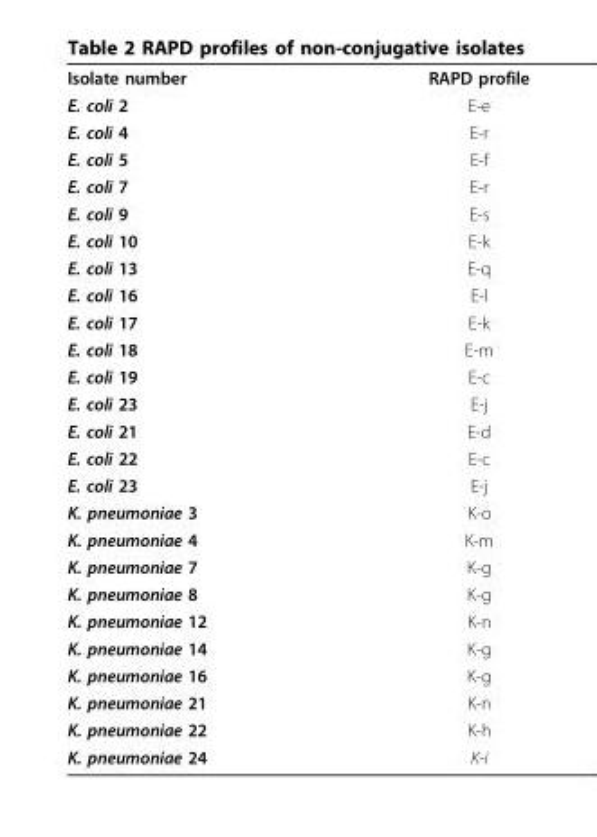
<table><tbody><tr><td>Isolate number</td><td>RAPD profile</td></tr><tr><td>E. coli 2</td><td>E-e</td></tr><tr><td>E. coli 4</td><td>E-r</td></tr><tr><td>E. coli 5</td><td>E-f</td></tr><tr><td>E. coli 7</td><td>E-r</td></tr><tr><td>E. coli 9</td><td>E-s</td></tr><tr><td>E. coli 10</td><td>E-k</td></tr><tr><td>E. coli 13</td><td>E-q</td></tr><tr><td>E. coli 16</td><td>E-l</td></tr><tr><td>E. coli 17</td><td>E-k</td></tr><tr><td>E. coli 18</td><td>E-m</td></tr><tr><td>E. coli 19</td><td>E-c</td></tr><tr><td>E. coli 23</td><td>E-j</td></tr><tr><td>E. coli 21</td><td>E-d</td></tr><tr><td>E. coli 22</td><td>E-c</td></tr><tr><td>E. coli 23</td><td>E-j</td></tr><tr><td>K. pneumoniae 3</td><td>K-o</td></tr><tr><td>K. pneumoniae 4</td><td>K-m</td></tr><tr><td>K. pneumoniae 7</td><td>K-g</td></tr><tr><td>K. pneumoniae 8</td><td>K-g</td></tr><tr><td>K. pneumoniae 12</td><td>K-n</td></tr><tr><td>K. pneumoniae 14</td><td>K-g</td></tr><tr><td>K. pneumoniae 16</td><td>K-g</td></tr><tr><td>K. pneumoniae 21</td><td>K-n</td></tr><tr><td>K. pneumoniae 22</td><td>K-h</td></tr><tr><td>K. pneumoniae 24</td><td>K-i</td></tr></tbody></table>